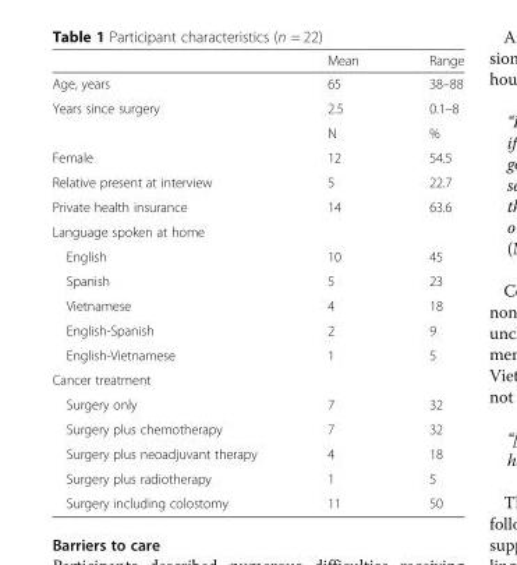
<table><thead><tr><td></td><td>Mean</td><td>Range</td></tr></thead><tbody><tr><td>Age, years</td><td>65</td><td>38–88</td></tr><tr><td rowspan="2">Years since surgery</td><td>2.5</td><td>0.1–8</td></tr><tr><td>N</td><td>%</td></tr><tr><td>Female</td><td>12</td><td>54.5</td></tr><tr><td>Relative present at interview</td><td>5</td><td>22.7</td></tr><tr><td>Private health insurance</td><td>14</td><td>63.6</td></tr><tr><td colspan="3">Language spoken at home</td></tr><tr><td>English</td><td>10</td><td>45</td></tr><tr><td>Spanish</td><td>5</td><td>23</td></tr><tr><td>Vietnamese</td><td>4</td><td>18</td></tr><tr><td>English-Spanish</td><td>2</td><td>9</td></tr><tr><td>English-Vietnamese</td><td>1</td><td>5</td></tr><tr><td colspan="3">Cancer treatment</td></tr><tr><td>Surgery only</td><td>7</td><td>32</td></tr><tr><td>Surgery plus chemotherapy</td><td>7</td><td>32</td></tr><tr><td>Surgery plus neoadjuvant therapy</td><td>4</td><td>18</td></tr><tr><td>Surgery plus radiotherapy</td><td>1</td><td>5</td></tr><tr><td>Surgery including colostomy</td><td>11</td><td>50</td></tr></tbody></table>